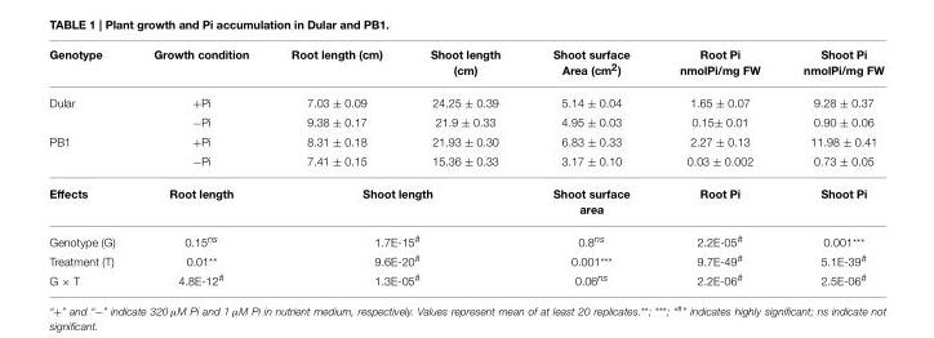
<table><thead><tr><td>Genotype</td><td>Growth condition</td><td>Root length (cm)</td><td>Shoot length (cm)</td><td>Shoot surface Area (cm<sup>2</sup>)</td><td>Root Pi nmolPi/mg FW</td><td>Shoot Pi nmolPi/mg FW</td></tr></thead><tbody><tr><td rowspan="2">Dular</td><td>+Pi</td><td>7.03 ± 0.09</td><td>24.25 ± 0.39</td><td>5.14 ± 0.04</td><td>1.65 ± 0.07</td><td>9.28 ± 0.37</td></tr><tr><td>−Pi</td><td>9.38 ± 0.17</td><td>21.9 ± 0.33</td><td>4.95 ± 0.03</td><td>0.15± 0.01</td><td>0.90 ± 0.06</td></tr><tr><td rowspan="2">PB1</td><td>+Pi</td><td>8.31 ± 0.18</td><td>21.93 ± 0.30</td><td>6.83 ± 0.33</td><td>2.27 ± 0.13</td><td>11.98 ± 0.41</td></tr><tr><td>−Pi</td><td>7.41 ± 0.15</td><td>15.36 ± 0.33</td><td>3.17 ± 0.10</td><td>0.03 ± 0.002</td><td>0.73 ± 0.05</td></tr><tr><td>Effects</td><td>Root length</td><td colspan="2">Shoot length</td><td>Shoot surface area</td><td>Root Pi</td><td>Shoot Pi</td></tr><tr><td>Genotype (G)</td><td>0.15<sup>ns</sup></td><td colspan="2">1.7E-15<sup>#</sup></td><td>0.8<sup>ns</sup></td><td>2.2E-05<sup>#</sup></td><td>0.001***</td></tr><tr><td>Treatment (T)</td><td>0.01**</td><td colspan="2">9.6E-20<sup>#</sup></td><td>0.001***</td><td>9.7E-49<sup>#</sup></td><td>5.1E-39<sup>#</sup></td></tr><tr><td>G × T</td><td>4.8E-12<sup>#</sup></td><td colspan="2">1.3E-05<sup>#</sup></td><td>0.06<sup>ns</sup></td><td>2.2E-06<sup>#</sup></td><td>2.5E-06<sup>#</sup></td></tr></tbody></table>